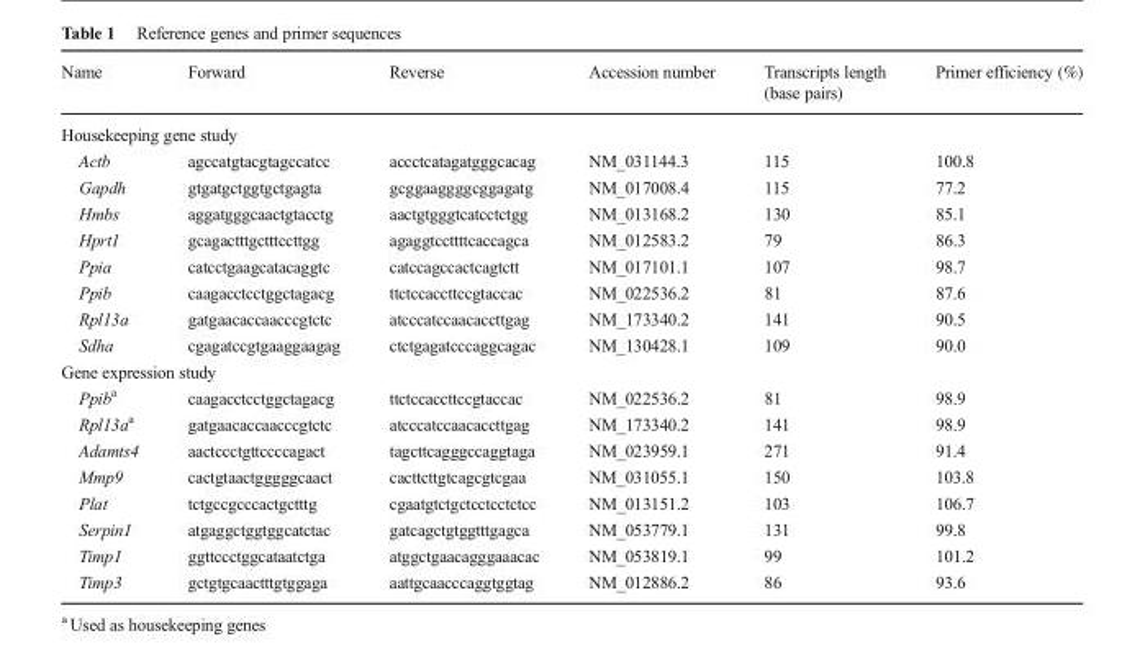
<table><thead><tr><td>Name</td><td>Forward</td><td>Reverse</td><td>Accession number</td><td>Transcripts length (base pairs)</td><td>Primer efficiency (%)</td></tr></thead><tbody><tr><td colspan="6">Housekeeping gene study</td></tr><tr><td>Actb</td><td>agccatgtacgtagccatcc</td><td>accctcatagatgggcacag</td><td>NM_031144.3</td><td>115</td><td>100.8</td></tr><tr><td>Gapdh</td><td>gtgatgctggtgctgagta</td><td>gcggaaggggcggagatg</td><td>NM_017008.4</td><td>115</td><td>77.2</td></tr><tr><td>Hmbs</td><td>aggatgggcaactgtacctg</td><td>aactgtgggtcatcctctgg</td><td>NM_013168.2</td><td>130</td><td>85.1</td></tr><tr><td>Hprt1</td><td>gcagactttgctttccttgg</td><td>agaggtccttttcaccagca</td><td>NM_012583.2</td><td>79</td><td>86.3</td></tr><tr><td>Ppia</td><td>catcctgaagcatacaggtc</td><td>catccagccactcagtctt</td><td>NM_017101.1</td><td>107</td><td>98.7</td></tr><tr><td>Ppib</td><td>caagacctcctggctagacg</td><td>ttctccaccttccgtaccac</td><td>NM_022536.2</td><td>81</td><td>87.6</td></tr><tr><td>Rpl13a</td><td>gatgaacaccaacccgtctc</td><td>atcccatccaacaccttgag</td><td>NM_173340.2</td><td>141</td><td>90.5</td></tr><tr><td>Sdha</td><td>cgagatccgtgaaggaagag</td><td>ctctgagatcccaggcagac</td><td>NM_130428.1</td><td>109</td><td>90.0</td></tr><tr><td colspan="6">Gene expression study</td></tr><tr><td>Ppib<sup>a</sup></td><td>caagacctcctggctagacg</td><td>ttctccaccttccgtaccac</td><td>NM_022536.2</td><td>81</td><td>98.9</td></tr><tr><td>Rpl13a<sup>a</sup></td><td>gatgaacaccaacccgtctc</td><td>atcccatccaacaccttgag</td><td>NM_173340.2</td><td>141</td><td>98.9</td></tr><tr><td>Adamts4</td><td>aactccctgttccccagact</td><td>tagcttcagggccaggtaga</td><td>NM_023959.1</td><td>271</td><td>91.4</td></tr><tr><td>Mmp9</td><td>cactgtaactgggggcaact</td><td>cacttcttgtcagcgtcgaa</td><td>NM_031055.1</td><td>150</td><td>103.8</td></tr><tr><td>Plat</td><td>tctgccgcccactgctttg</td><td>cgaatgtctgctcctcctctcc</td><td>NM_013151.2</td><td>103</td><td>106.7</td></tr><tr><td>Serpin1</td><td>atgaggctggtggcatctac</td><td>gatcagctgtggtttgagca</td><td>NM_053779.1</td><td>131</td><td>99.8</td></tr><tr><td>Timp1</td><td>ggttccctggcataatctga</td><td>atggctgaacagggaaacac</td><td>NM_053819.1</td><td>99</td><td>101.2</td></tr><tr><td>Timp3</td><td>gctgtgcaactttgtggaga</td><td>aattgcaacccaggtggtag</td><td>NM_012886.2</td><td>86</td><td>93.6</td></tr></tbody></table>